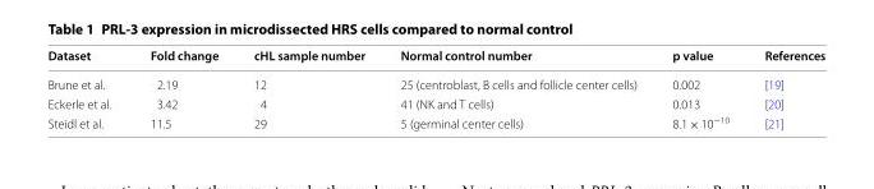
<table><thead><tr><td>Dataset</td><td>Fold change</td><td>cHL sample number</td><td>Normal control number</td><td>p value</td><td>References</td></tr></thead><tbody><tr><td>Brune et al.</td><td>2.19</td><td>12</td><td>25 (centroblast, B cells and follicle center cells)</td><td>0.002</td><td>[19]</td></tr><tr><td>Eckerle et al.</td><td>3.42</td><td>4</td><td>41 (NK and T cells)</td><td>0.013</td><td>[20]</td></tr><tr><td>Steidl et al.</td><td>11.5</td><td>29</td><td>5 (germinal center cells)</td><td>8.1 × 10<sup>−10</sup></td><td>[21]</td></tr></tbody></table>